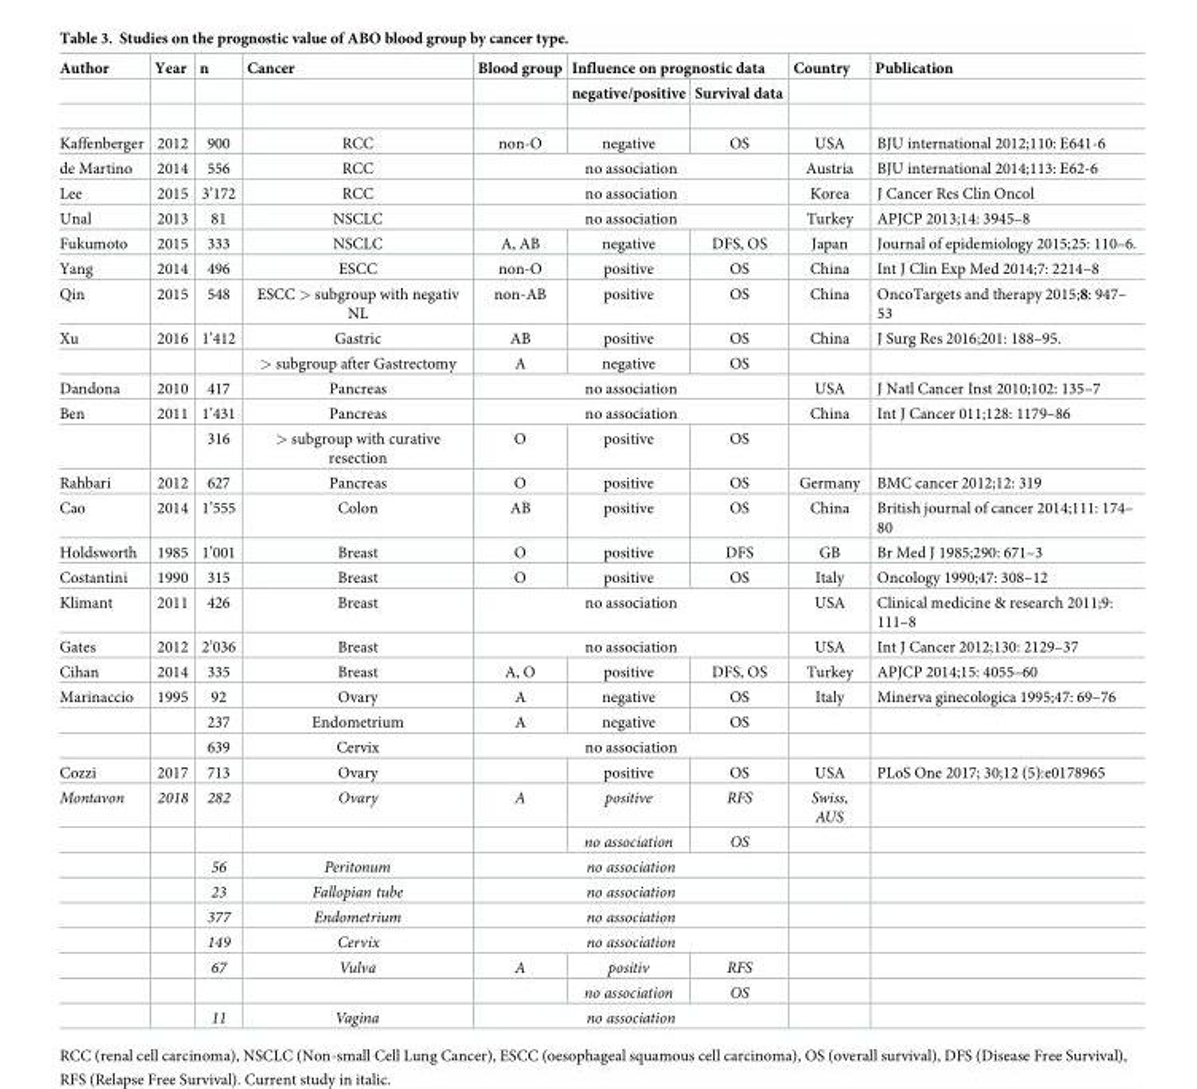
<table><thead><tr><td rowspan="2">Author</td><td rowspan="2">Year</td><td rowspan="2">n</td><td rowspan="2">Cancer</td><td rowspan="2">Blood group</td><td colspan="2">Influence on prognostic data</td><td rowspan="2">Country</td><td rowspan="2">Publication</td></tr><tr><td>negative/positive</td><td>Survival data</td></tr></thead><tbody><tr><td>Kaffenberger</td><td>2012</td><td>900</td><td>RCC</td><td>non-O</td><td>negative</td><td>OS</td><td>USA</td><td>BJU international 2012;110: E641-6</td></tr><tr><td>de Martino</td><td>2014</td><td>556</td><td>RCC</td><td colspan="3">no association</td><td>Austria</td><td>BJU international 2014;113: E62-6</td></tr><tr><td>Lee</td><td>2015</td><td>3’172</td><td>RCC</td><td colspan="3">no association</td><td>Korea</td><td>J Cancer Res Clin Oncol</td></tr><tr><td>Unal</td><td>2013</td><td>81</td><td>NSCLC</td><td colspan="3">no association</td><td>Turkey</td><td>APJCP 2013;14: 3945–8</td></tr><tr><td>Fukumoto</td><td>2015</td><td>333</td><td>NSCLC</td><td>A, AB</td><td>negative</td><td>DFS, OS</td><td>Japan</td><td>Journal of epidemiology 2015;25: 110–6.</td></tr><tr><td>Yang</td><td>2014</td><td>496</td><td>ESCC</td><td>non-O</td><td>positive</td><td>OS</td><td>China</td><td>Int J Clin Exp Med 2014;7: 2214–8</td></tr><tr><td>Qin</td><td>2015</td><td>548</td><td>ESCC &gt; subgroup with negativ NL</td><td>non-AB</td><td>positive</td><td>OS</td><td>China</td><td>OncoTargets and therapy 2015;8: 947– 53</td></tr><tr><td rowspan="2">Xu</td><td>2016</td><td>1’412</td><td>Gastric</td><td>AB</td><td>positive</td><td>OS</td><td>China</td><td>J Surg Res 2016;201: 188–95.</td></tr><tr><td></td><td></td><td>&gt; subgroup after Gastrectomy</td><td>A</td><td>negative</td><td>OS</td><td></td><td></td></tr><tr><td>Dandona</td><td>2010</td><td>417</td><td>Pancreas</td><td colspan="3">no association</td><td>USA</td><td>J Natl Cancer Inst 2010;102: 135–7</td></tr><tr><td rowspan="2">Ben</td><td>2011</td><td>1’431</td><td>Pancreas</td><td colspan="3">no association</td><td>China</td><td>Int J Cancer 011;128: 1179–86</td></tr><tr><td></td><td>316</td><td>&gt; subgroup with curative resection</td><td>O</td><td>positive</td><td>OS</td><td></td><td></td></tr><tr><td>Rahbari</td><td>2012</td><td>627</td><td>Pancreas</td><td>O</td><td>positive</td><td>OS</td><td>Germany</td><td>BMC cancer 2012;12: 319</td></tr><tr><td>Cao</td><td>2014</td><td>1’555</td><td>Colon</td><td>AB</td><td>positive</td><td>OS</td><td>China</td><td>British journal of cancer 2014;111: 174– 80</td></tr><tr><td>Holdsworth</td><td>1985</td><td>1’001</td><td>Breast</td><td>O</td><td>positive</td><td>DFS</td><td>GB</td><td>Br Med J 1985;290: 671–3</td></tr><tr><td>Costantini</td><td>1990</td><td>315</td><td>Breast</td><td>O</td><td>positive</td><td>OS</td><td>Italy</td><td>Oncology 1990;47: 308–12</td></tr><tr><td>Klimant</td><td>2011</td><td>426</td><td>Breast</td><td colspan="3">no association</td><td>USA</td><td>Clinical medicine &amp; research 2011;9: 111–8</td></tr><tr><td>Gates</td><td>2012</td><td>2’036</td><td>Breast</td><td colspan="3">no association</td><td>USA</td><td>Int J Cancer 2012;130: 2129–37</td></tr><tr><td>Cihan</td><td>2014</td><td>335</td><td>Breast</td><td>A, O</td><td>positive</td><td>DFS, OS</td><td>Turkey</td><td>APJCP 2014;15: 4055–60</td></tr><tr><td rowspan="3">Marinaccio</td><td>1995</td><td>92</td><td>Ovary</td><td>A</td><td>negative</td><td>OS</td><td>Italy</td><td>Minerva ginecologica 1995;47: 69–76</td></tr><tr><td></td><td>237</td><td>Endometrium</td><td>A</td><td>negative</td><td>OS</td><td></td><td></td></tr><tr><td></td><td>639</td><td>Cervix</td><td colspan="3">no association</td><td></td><td></td></tr><tr><td>Cozzi</td><td>2017</td><td>713</td><td>Ovary</td><td></td><td>positive</td><td>OS</td><td>USA</td><td>PLoS One 2017; 30;12 (5):e0178965</td></tr><tr><td rowspan="9">Montavon</td><td>2018</td><td>282</td><td>Ovary</td><td>A</td><td>positive</td><td>RFS</td><td>Swiss, AUS</td><td></td></tr><tr><td></td><td></td><td></td><td></td><td>no association</td><td>OS</td><td></td><td></td></tr><tr><td></td><td>56</td><td>Peritonum</td><td colspan="3">no association</td><td></td><td></td></tr><tr><td></td><td>23</td><td>Fallopian tube</td><td colspan="3">no association</td><td></td><td></td></tr><tr><td></td><td>377</td><td>Endometrium</td><td colspan="3">no association</td><td></td><td></td></tr><tr><td></td><td>149</td><td>Cervix</td><td colspan="3">no association</td><td></td><td></td></tr><tr><td></td><td>67</td><td>Vulva</td><td>A</td><td>positiv</td><td>RFS</td><td></td><td></td></tr><tr><td></td><td></td><td></td><td></td><td>no association</td><td>OS</td><td></td><td></td></tr><tr><td></td><td>11</td><td>Vagina</td><td colspan="3">no association</td><td></td><td></td></tr></tbody></table>